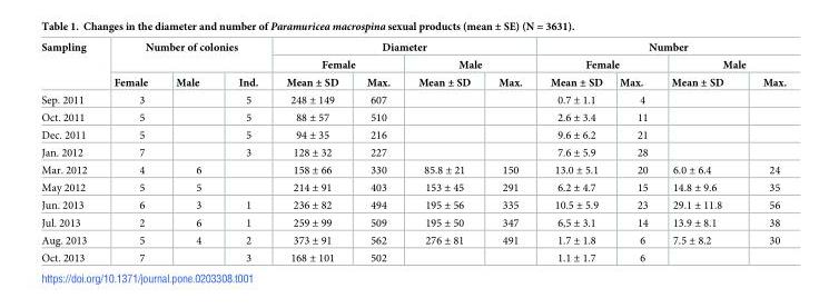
<table><thead><tr><td rowspan="3">Sampling</td><td rowspan="2" colspan="3">Number of colonies</td><td colspan="4">Diameter</td><td colspan="4">Number</td></tr><tr><td colspan="2">Female</td><td colspan="2">Male</td><td colspan="2">Female</td><td colspan="2">Male</td></tr><tr><td>Female</td><td>Male</td><td>Ind.</td><td>Mean ± SD</td><td>Max.</td><td>Mean ± SD</td><td>Max.</td><td>Mean ± SD</td><td>Max.</td><td>Mean ± SD</td><td>Max.</td></tr></thead><tbody><tr><td>Sep. 2011</td><td>3</td><td></td><td>5</td><td>248 ± 149</td><td>607</td><td></td><td></td><td>0.7 ± 1.1</td><td>4</td><td></td><td></td></tr><tr><td>Oct. 2011</td><td>5</td><td></td><td>5</td><td>88 ± 57</td><td>510</td><td></td><td></td><td>2.6 ± 3.4</td><td>11</td><td></td><td></td></tr><tr><td>Dec. 2011</td><td>5</td><td></td><td>5</td><td>94 ± 35</td><td>216</td><td></td><td></td><td>9.6 ± 6.2</td><td>21</td><td></td><td></td></tr><tr><td>Jan. 2012</td><td>7</td><td></td><td>3</td><td>128 ± 32</td><td>227</td><td></td><td></td><td>7.6 ± 5.9</td><td>28</td><td></td><td></td></tr><tr><td>Mar. 2012</td><td>4</td><td>6</td><td></td><td>158 ± 66</td><td>330</td><td>85.8 ± 21</td><td>150</td><td>13.0 ± 5.1</td><td>20</td><td>6.0 ± 6.4</td><td>24</td></tr><tr><td>May 2012</td><td>5</td><td>5</td><td></td><td>214 ± 91</td><td>403</td><td>153 ± 45</td><td>291</td><td>6.2 ± 4.7</td><td>15</td><td>14.8 ± 9.6</td><td>35</td></tr><tr><td>Jun. 2013</td><td>6</td><td>3</td><td>1</td><td>236 ± 82</td><td>494</td><td>195 ± 56</td><td>335</td><td>10.5 ± 5.9</td><td>23</td><td>29.1 ± 11.8</td><td>56</td></tr><tr><td>Jul. 2013</td><td>2</td><td>6</td><td>1</td><td>259 ± 99</td><td>509</td><td>195 ± 50</td><td>347</td><td>6,5 ± 3.1</td><td>14</td><td>13.9 ± 8.1</td><td>38</td></tr><tr><td>Aug. 2013</td><td>5</td><td>4</td><td>2</td><td>373 ± 91</td><td>562</td><td>276 ± 81</td><td>491</td><td>1.7 ± 1.8</td><td>6</td><td>7.5 ± 8.2</td><td>30</td></tr><tr><td>Oct. 2013</td><td>7</td><td></td><td>3</td><td>168 ± 101</td><td>502</td><td></td><td></td><td>1.1 ± 1.7</td><td>6</td><td></td><td></td></tr></tbody></table>